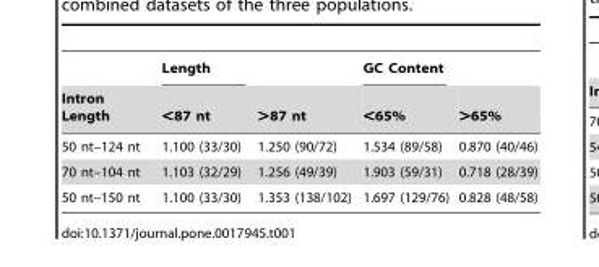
<table><thead><tr><td rowspan="2">Intron Length</td><td rowspan="2">Length &lt;87 nt</td><td rowspan="2">&gt;87 nt</td><td rowspan="2">GC Content &lt;65%</td><td rowspan="2">&gt;65%</td></tr><tr></tr></thead><tbody><tr><td>50 nt–124 nt</td><td>1.100 (33/30)</td><td>1.250 (90/72)</td><td>1.534 (89/58)</td><td>0.870 (40/46)</td></tr><tr><td>70 nt–104 nt</td><td>1.103 (32/29)</td><td>1.256 (49/39)</td><td>1.903 (59/31)</td><td>0.718 (28/39)</td></tr><tr><td>50 nt–150 nt</td><td>1.100 (33/30)</td><td>1.353 (138/102)</td><td>1.697 (129/76)</td><td>0.828 (48/58)</td></tr></tbody></table>